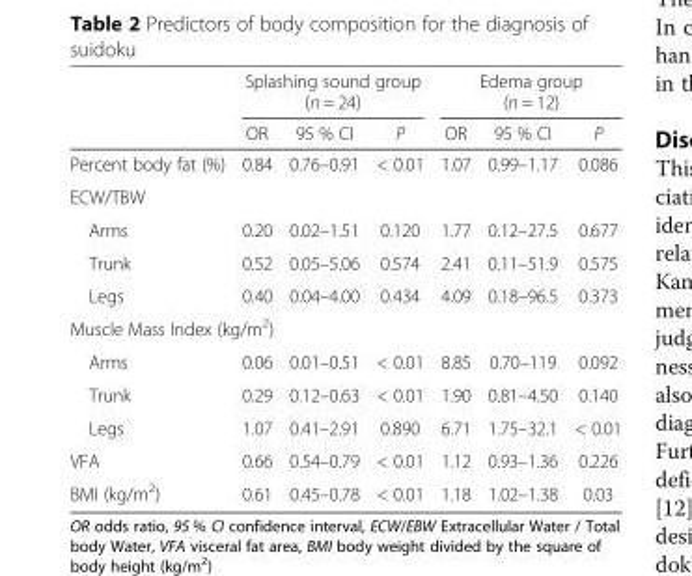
<table><thead><tr><td rowspan="2"></td><td colspan="3">Splashing sound group (n = 24)</td><td colspan="3">Edema group (n = 12)</td></tr><tr><td>OR</td><td>95 % CI</td><td>P</td><td>OR</td><td>95 % CI</td><td>P</td></tr></thead><tbody><tr><td>Percent body fat (%)</td><td>0.84</td><td>0.76–0.91</td><td>&lt; 0.01</td><td>1.07</td><td>0.99–1.17</td><td>0.086</td></tr><tr><td colspan="7">ECW/TBW</td></tr><tr><td>Arms</td><td>0.20</td><td>0.02–1.51</td><td>0.120</td><td>1.77</td><td>0.12–27.5</td><td>0.677</td></tr><tr><td>Trunk</td><td>0.52</td><td>0.05–5.06</td><td>0.574</td><td>2.41</td><td>0.11–51.9</td><td>0.575</td></tr><tr><td>Legs</td><td>0.40</td><td>0.04–4.00</td><td>0.434</td><td>4.09</td><td>0.18–96.5</td><td>0.373</td></tr><tr><td colspan="7">Muscle Mass Index (kg/m<sup>2</sup>)</td></tr><tr><td>Arms</td><td>0.06</td><td>0.01–0.51</td><td>&lt; 0.01</td><td>8.85</td><td>0.70–119</td><td>0.092</td></tr><tr><td>Trunk</td><td>0.29</td><td>0.12–0.63</td><td>&lt; 0.01</td><td>1.90</td><td>0.81–4.50</td><td>0.140</td></tr><tr><td>Legs</td><td>1.07</td><td>0.41–2.91</td><td>0.890</td><td>6.71</td><td>1.75–32.1</td><td>&lt; 0.01</td></tr><tr><td>VFA</td><td>0.66</td><td>0.54–0.79</td><td>&lt; 0.01</td><td>1.12</td><td>0.93–1.36</td><td>0.226</td></tr><tr><td>BMI (kg/m<sup>2</sup>)</td><td>0.61</td><td>0.45–0.78</td><td>&lt; 0.01</td><td>1.18</td><td>1.02–1.38</td><td>0.03</td></tr></tbody></table>